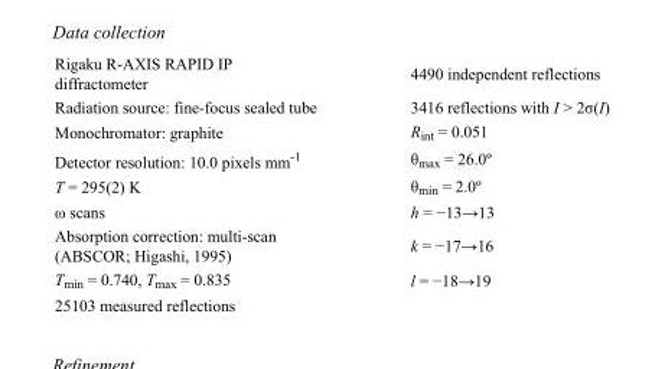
<table><tbody><tr><td>Rigaku R-AXIS RAPID IP diffractometer</td><td>4490 independent reflections</td></tr><tr><td>Radiation source: fine-focus sealed tube</td><td>3416 reflections with I &gt; 2σ(I)</td></tr><tr><td>Monochromator: graphite</td><td>R<sub>int</sub> = 0.051</td></tr><tr><td>Detector resolution: 10.0 pixels mm<sup>-1</sup></td><td>θ<sub>max</sub> = 26.0º</td></tr><tr><td>T = 295(2) K</td><td>θ<sub>min</sub> = 2.0º</td></tr><tr><td>ω scans</td><td>h = −13→13</td></tr><tr><td>Absorption correction: multi-scan (ABSCOR; Higashi, 1995)</td><td>k = −17→16</td></tr><tr><td>T<sub>min</sub> = 0.740, T<sub>max</sub> = 0.835</td><td>l = −18→19</td></tr><tr><td>25103 measured reflections</td><td></td></tr></tbody></table>